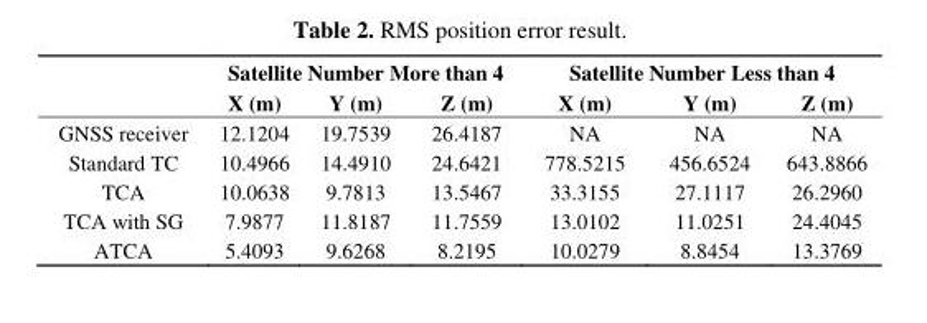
<table><thead><tr><td rowspan="2"></td><td colspan="3">Satellite Number More than 4</td><td colspan="3">Satellite Number Less than 4</td></tr><tr><td>X (m)</td><td>Y (m)</td><td>Z (m)</td><td>X (m)</td><td>Y (m)</td><td>Z (m)</td></tr></thead><tbody><tr><td>GNSS receiver</td><td>12.1204</td><td>19.7539</td><td>26.4187</td><td>NA</td><td>NA</td><td>NA</td></tr><tr><td>Standard TC</td><td>10.4966</td><td>14.4910</td><td>24.6421</td><td>778.5215</td><td>456.6524</td><td>643.8866</td></tr><tr><td>TCA</td><td>10.0638</td><td>9.7813</td><td>13.5467</td><td>33.3155</td><td>27.1117</td><td>26.2960</td></tr><tr><td>TCA with SG</td><td>7.9877</td><td>11.8187</td><td>11.7559</td><td>13.0102</td><td>11.0251</td><td>24.4045</td></tr><tr><td>ATCA</td><td>5.4093</td><td>9.6268</td><td>8.2195</td><td>10.0279</td><td>8.8454</td><td>13.3769</td></tr></tbody></table>